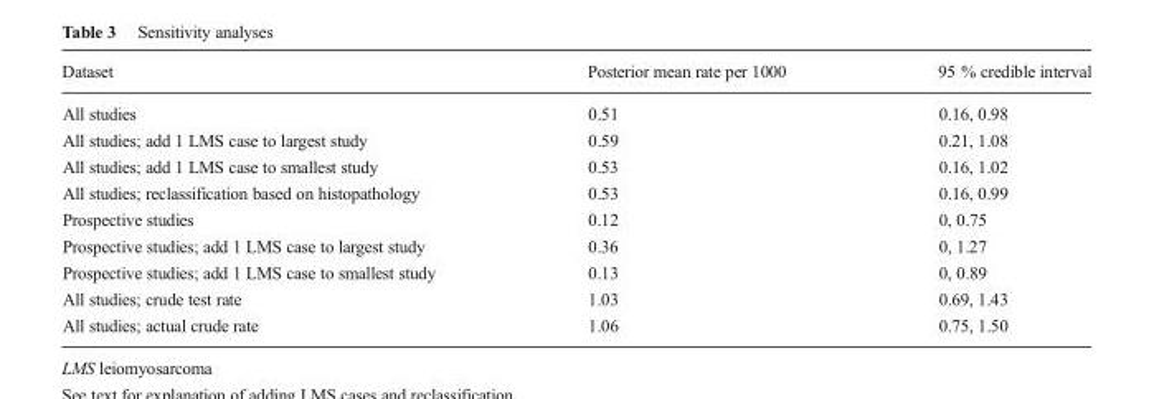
<table><thead><tr><td>Dataset</td><td>Posterior mean rate per 1000</td><td>95 % credible interval</td></tr></thead><tbody><tr><td>All studies</td><td>0.51</td><td>0.16, 0.98</td></tr><tr><td>All studies; add 1 LMS case to largest study</td><td>0.59</td><td>0.21, 1.08</td></tr><tr><td>All studies; add 1 LMS case to smallest study</td><td>0.53</td><td>0.16, 1.02</td></tr><tr><td>All studies; reclassification based on histopathology</td><td>0.53</td><td>0.16, 0.99</td></tr><tr><td>Prospective studies</td><td>0.12</td><td>0, 0.75</td></tr><tr><td>Prospective studies; add 1 LMS case to largest study</td><td>0.36</td><td>0, 1.27</td></tr><tr><td>Prospective studies; add 1 LMS case to smallest study</td><td>0.13</td><td>0, 0.89</td></tr><tr><td>All studies; crude test rate</td><td>1.03</td><td>0.69, 1.43</td></tr><tr><td>All studies; actual crude rate</td><td>1.06</td><td>0.75, 1.50</td></tr></tbody></table>